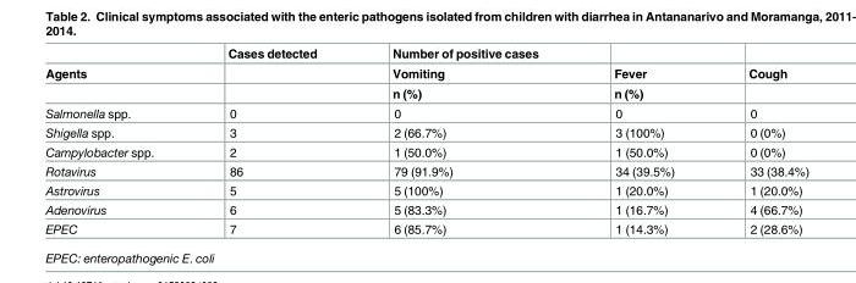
<table><thead><tr><td rowspan="3">Agents</td><td rowspan="3">Cases detected</td><td rowspan="3">Number of positive cases Vomiting n (%)</td><td rowspan="3">Fever n (%)</td><td rowspan="3">Cough</td></tr><tr></tr><tr></tr></thead><tbody><tr><td>Salmonella spp.</td><td>0</td><td>0</td><td>0</td><td>0</td></tr><tr><td>Shigella spp.</td><td>3</td><td>2 (66.7%)</td><td>3 (100%)</td><td>0 (0%)</td></tr><tr><td>Campylobacter spp.</td><td>2</td><td>1 (50.0%)</td><td>1 (50.0%)</td><td>0 (0%)</td></tr><tr><td>Rotavirus</td><td>86</td><td>79 (91.9%)</td><td>34 (39.5%)</td><td>33 (38.4%)</td></tr><tr><td>Astrovirus</td><td>5</td><td>5 (100%)</td><td>1 (20.0%)</td><td>1 (20.0%)</td></tr><tr><td>Adenovirus</td><td>6</td><td>5 (83.3%)</td><td>1 (16.7%)</td><td>4 (66.7%)</td></tr><tr><td>EPEC</td><td>7</td><td>6 (85.7%)</td><td>1 (14.3%)</td><td>2 (28.6%)</td></tr></tbody></table>